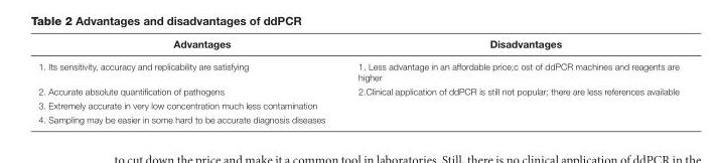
<table><thead><tr><td>Advantages</td><td>Disadvantages</td></tr></thead><tbody><tr><td>1. Its sensitivity, accuracy and replicability are satisfying</td><td>1. Less advantage in an affordable price;c ost of ddPCR machines and reagents are higher</td></tr><tr><td>2. Accurate absolute quantification of pathogens</td><td>2.Clinical application of ddPCR is still not popular; there are less references available</td></tr><tr><td colspan="2">3. Extremely accurate in very low concentration much less contamination</td></tr><tr><td>4. Sampling may be easier in some hard to be accurate diagnosis diseases</td><td></td></tr></tbody></table>